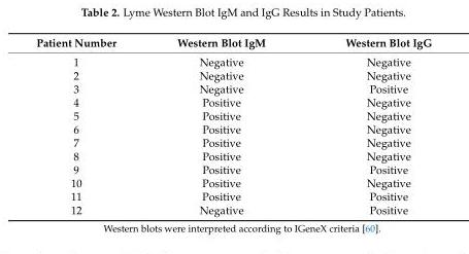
<table><thead><tr><td>Patient Number</td><td>Western Blot IgM</td><td>Western Blot IgG</td></tr></thead><tbody><tr><td>1</td><td>Negative</td><td>Negative</td></tr><tr><td>2</td><td>Negative</td><td>Negative</td></tr><tr><td>3</td><td>Negative</td><td>Positive</td></tr><tr><td>4</td><td>Positive</td><td>Negative</td></tr><tr><td>5</td><td>Positive</td><td>Negative</td></tr><tr><td>6</td><td>Positive</td><td>Negative</td></tr><tr><td>7</td><td>Positive</td><td>Negative</td></tr><tr><td>8</td><td>Positive</td><td>Negative</td></tr><tr><td>9</td><td>Positive</td><td>Positive</td></tr><tr><td>10</td><td>Positive</td><td>Negative</td></tr><tr><td>11</td><td>Positive</td><td>Positive</td></tr><tr><td>12</td><td>Negative</td><td>Positive</td></tr></tbody></table>